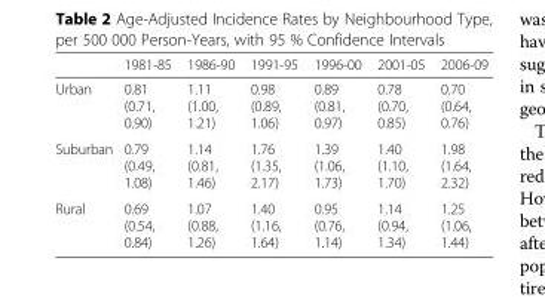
<table><thead><tr><td></td><td>1981-85</td><td>1986-90</td><td>1991-95</td><td>1996-00</td><td>2001-05</td><td>2006-09</td></tr></thead><tbody><tr><td>Urban</td><td>0.81 (0.71, 0.90)</td><td>1.11 (1.00, 1.21)</td><td>0.98 (0.89, 1.06)</td><td>0.89 (0.81, 0.97)</td><td>0.78 (0.70, 0.85)</td><td>0.70 (0.64, 0.76)</td></tr><tr><td>Suburban</td><td>0.79 (0.49, 1.08)</td><td>1.14 (0.81, 1.46)</td><td>1.76 (1.35, 2.17)</td><td>1.39 (1.06, 1.73)</td><td>1.40 (1.10, 1.70)</td><td>1.98 (1.64, 2.32)</td></tr><tr><td>Rural</td><td>0.69 (0.54, 0.84)</td><td>1.07 (0.88, 1.26)</td><td>1.40 (1.16, 1.64)</td><td>0.95 (0.76, 1.14)</td><td>1.14 (0.94, 1.34)</td><td>1.25 (1.06, 1.44)</td></tr></tbody></table>